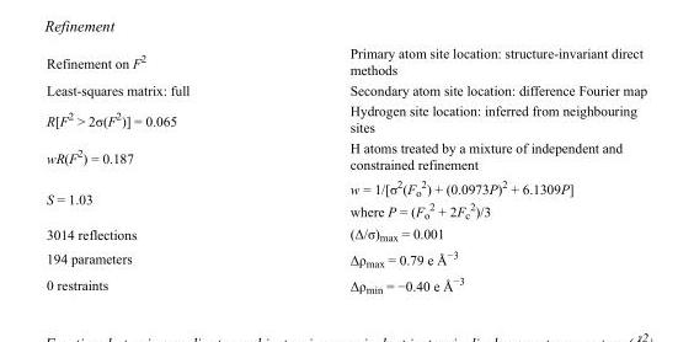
<table><tbody><tr><td>Refinement on F<sup>2</sup></td><td>Primary atom site location: structure-invariant direct methods</td></tr><tr><td>Least-squares matrix: full</td><td>Secondary atom site location: difference Fourier map</td></tr><tr><td>R[F<sup>2</sup> &gt; 2σ(F<sup>2</sup>)] = 0.065</td><td>Hydrogen site location: inferred from neighbouring sites</td></tr><tr><td>wR(F<sup>2</sup>) = 0.187</td><td>H atoms treated by a mixture of independent and constrained refinement</td></tr><tr><td>S = 1.03</td><td>w = 1/[σ<sup>2</sup>(F<sub>o</sub> <sup>2</sup>) + (0.0973P)<sup>2</sup> + 6.1309P] where P = (F<sub>o</sub> <sup>2</sup> + 2F<sub>c</sub> <sup>2</sup>)/3</td></tr><tr><td>3014 reflections</td><td>(Δ/σ)<sub>max</sub> = 0.001</td></tr><tr><td>194 parameters</td><td>Δρ<sub>max</sub> = 0.79 e Å<sup>−3</sup></td></tr><tr><td>0 restraints</td><td>Δρ<sub>min</sub> = −0.40 e Å<sup>−3</sup></td></tr></tbody></table>